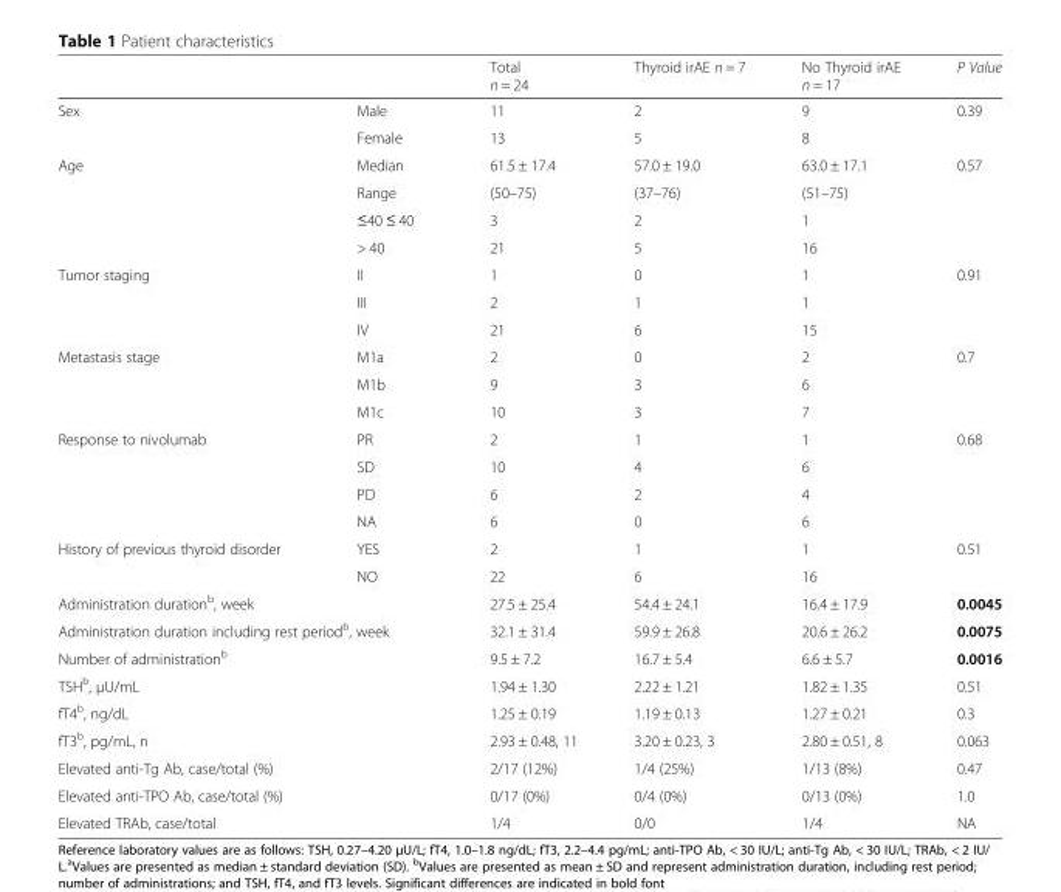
<table><thead><tr><td></td><td></td><td>Total n = 24</td><td>Thyroid irAE n = 7</td><td>No Thyroid irAE n = 17</td><td>P Value</td></tr></thead><tbody><tr><td rowspan="2">Sex</td><td>Male</td><td>11</td><td>2</td><td>9</td><td rowspan="2">0.39</td></tr><tr><td>Female</td><td>13</td><td>5</td><td>8</td></tr><tr><td rowspan="4">Age</td><td>Median</td><td>61.5 ± 17.4</td><td>57.0 ± 19.0</td><td>63.0 ± 17.1</td><td>0.57</td></tr><tr><td>Range</td><td>(50–75)</td><td>(37–76)</td><td>(51–75)</td><td></td></tr><tr><td>≤40 ≤ 40</td><td>3</td><td>2</td><td>1</td><td></td></tr><tr><td>&gt; 40</td><td>21</td><td>5</td><td>16</td><td></td></tr><tr><td rowspan="3">Tumor staging</td><td>II</td><td>1</td><td>0</td><td>1</td><td rowspan="3">0.91</td></tr><tr><td>III</td><td>2</td><td>1</td><td>1</td></tr><tr><td>IV</td><td>21</td><td>6</td><td>15</td></tr><tr><td rowspan="3">Metastasis stage</td><td>M1a</td><td>2</td><td>0</td><td>2</td><td rowspan="3">0.7</td></tr><tr><td>M1b</td><td>9</td><td>3</td><td>6</td></tr><tr><td>M1c</td><td>10</td><td>3</td><td>7</td></tr><tr><td rowspan="4">Response to nivolumab</td><td>PR</td><td>2</td><td>1</td><td>1</td><td rowspan="4">0.68</td></tr><tr><td>SD</td><td>10</td><td>4</td><td>6</td></tr><tr><td>PD</td><td>6</td><td>2</td><td>4</td></tr><tr><td>NA</td><td>6</td><td>0</td><td>6</td></tr><tr><td rowspan="2">History of previous thyroid disorder</td><td>YES</td><td>2</td><td>1</td><td>1</td><td rowspan="2">0.51</td></tr><tr><td>NO</td><td>22</td><td>6</td><td>16</td></tr><tr><td colspan="2">Administration duration<sup>b</sup>, week</td><td>27.5 ± 25.4</td><td>54.4 ± 24.1</td><td>16.4 ± 17.9</td><td>0.0045</td></tr><tr><td colspan="2">Administration duration including rest period<sup>b</sup>, week</td><td>32.1 ± 31.4</td><td>59.9 ± 26.8</td><td>20.6 ± 26.2</td><td>0.0075</td></tr><tr><td colspan="2">Number of administration<sup>b</sup></td><td>9.5 ± 7.2</td><td>16.7 ± 5.4</td><td>6.6 ± 5.7</td><td>0.0016</td></tr><tr><td colspan="2">TSH<sup>b</sup>, μU/mL</td><td>1.94 ± 1.30</td><td>2.22 ± 1.21</td><td>1.82 ± 1.35</td><td>0.51</td></tr><tr><td colspan="2">fT4<sup>b</sup>, ng/dL</td><td>1.25 ± 0.19</td><td>1.19 ± 0.13</td><td>1.27 ± 0.21</td><td>0.3</td></tr><tr><td colspan="2">fT3<sup>b</sup>, pg/mL, n</td><td>2.93 ± 0.48, 11</td><td>3.20 ± 0.23, 3</td><td>2.80 ± 0.51, 8</td><td>0.063</td></tr><tr><td colspan="2">Elevated anti-Tg Ab, case/total (%)</td><td>2/17 (12%)</td><td>1/4 (25%)</td><td>1/13 (8%)</td><td>0.47</td></tr><tr><td colspan="2">Elevated anti-TPO Ab, case/total (%)</td><td>0/17 (0%)</td><td>0/4 (0%)</td><td>0/13 (0%)</td><td>1.0</td></tr><tr><td colspan="2">Elevated TRAb, case/total</td><td>1/4</td><td>0/0</td><td>1/4</td><td>NA</td></tr></tbody></table>